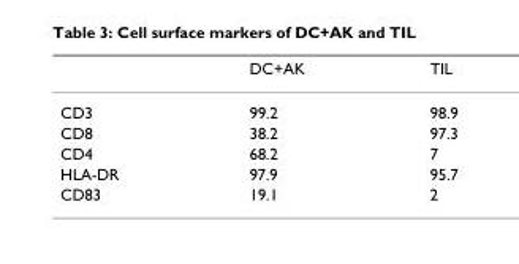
<table><thead><tr><td></td><td>DC+AK</td><td>TIL</td></tr></thead><tbody><tr><td>CD3</td><td>99.2</td><td>98.9</td></tr><tr><td>CD8</td><td>38.2</td><td>97.3</td></tr><tr><td>CD4</td><td>68.2</td><td>7</td></tr><tr><td>HLA-DR</td><td>97.9</td><td>95.7</td></tr><tr><td>CD83</td><td>19.1</td><td>2</td></tr></tbody></table>